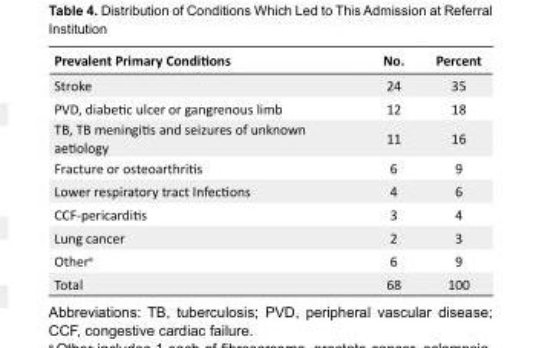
<table><tbody><tr><td>Prevalent Primary Conditions</td><td>No.</td><td>Percent</td></tr><tr><td>Stroke</td><td>24</td><td>35</td></tr><tr><td>PVD, diabetic ulcer or gangrenous limb</td><td>12</td><td>18</td></tr><tr><td>TB, TB meningitis and seizures of unknown aetiology</td><td>11</td><td>16</td></tr><tr><td>Fracture or osteoarthritis</td><td>6</td><td>9</td></tr><tr><td>Lower respiratory tract Infections</td><td>4</td><td>6</td></tr><tr><td>CCF-pericarditis</td><td>3</td><td>4</td></tr><tr><td>Lung cancer</td><td>2</td><td>3</td></tr><tr><td>Other<sup>a</sup></td><td>6</td><td>9</td></tr><tr><td>Total</td><td>68</td><td>100</td></tr></tbody></table>